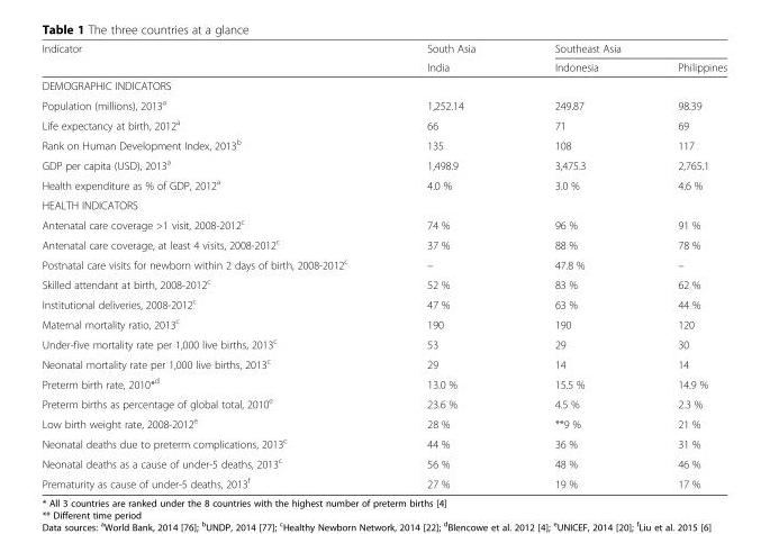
<table><thead><tr><td rowspan="2">Indicator</td><td rowspan="2">South Asia India</td><td colspan="2">Southeast Asia</td></tr><tr><td>Indonesia</td><td>Philippines</td></tr></thead><tbody><tr><td colspan="4">DEMOGRAPHIC INDICATORS</td></tr><tr><td>Population (millions), 2013<sup>a</sup></td><td>1,252.14</td><td>249.87</td><td>98.39</td></tr><tr><td>Life expectancy at birth, 2012<sup>a</sup></td><td>66</td><td>71</td><td>69</td></tr><tr><td>Rank on Human Development Index, 2013<sup>b</sup></td><td>135</td><td>108</td><td>117</td></tr><tr><td>GDP per capita (USD), 2013<sup>a</sup></td><td>1,498.9</td><td>3,475.3</td><td>2,765.1</td></tr><tr><td>Health expenditure as % of GDP, 2012<sup>a</sup></td><td>4.0 %</td><td>3.0 %</td><td>4.6 %</td></tr><tr><td colspan="4">HEALTH INDICATORS</td></tr><tr><td>Antenatal care coverage &gt;1 visit, 2008-2012<sup>c</sup></td><td>74 %</td><td>96 %</td><td>91 %</td></tr><tr><td>Antenatal care coverage, at least 4 visits, 2008-2012<sup>c</sup></td><td>37 %</td><td>88 %</td><td>78 %</td></tr><tr><td>Postnatal care visits for newborn within 2 days of birth, 2008-2012<sup>c</sup></td><td>–</td><td>47.8 %</td><td>–</td></tr><tr><td>Skilled attendant at birth, 2008-2012<sup>c</sup></td><td>52 %</td><td>83 %</td><td>62 %</td></tr><tr><td>Institutional deliveries, 2008-2012<sup>c</sup></td><td>47 %</td><td>63 %</td><td>44 %</td></tr><tr><td>Maternal mortality ratio, 2013<sup>c</sup></td><td>190</td><td>190</td><td>120</td></tr><tr><td>Under-five mortality rate per 1,000 live births, 2013<sup>c</sup></td><td>53</td><td>29</td><td>30</td></tr><tr><td>Neonatal mortality rate per 1,000 live births, 2013<sup>c</sup></td><td>29</td><td>14</td><td>14</td></tr><tr><td>Preterm birth rate, 2010*<sup>d</sup></td><td>13.0 %</td><td>15.5 %</td><td>14.9 %</td></tr><tr><td>Preterm births as percentage of global total, 2010<sup>e</sup></td><td>23.6 %</td><td>4.5 %</td><td>2.3 %</td></tr><tr><td>Low birth weight rate, 2008-2012<sup>e</sup></td><td>28 %</td><td>**9 %</td><td>21 %</td></tr><tr><td>Neonatal deaths due to preterm complications, 2013<sup>c</sup></td><td>44 %</td><td>36 %</td><td>31 %</td></tr><tr><td>Neonatal deaths as a cause of under-5 deaths, 2013<sup>c</sup></td><td>56 %</td><td>48 %</td><td>46 %</td></tr><tr><td>Prematurity as cause of under-5 deaths, 2013<sup>f</sup></td><td>27 %</td><td>19 %</td><td>17 %</td></tr></tbody></table>